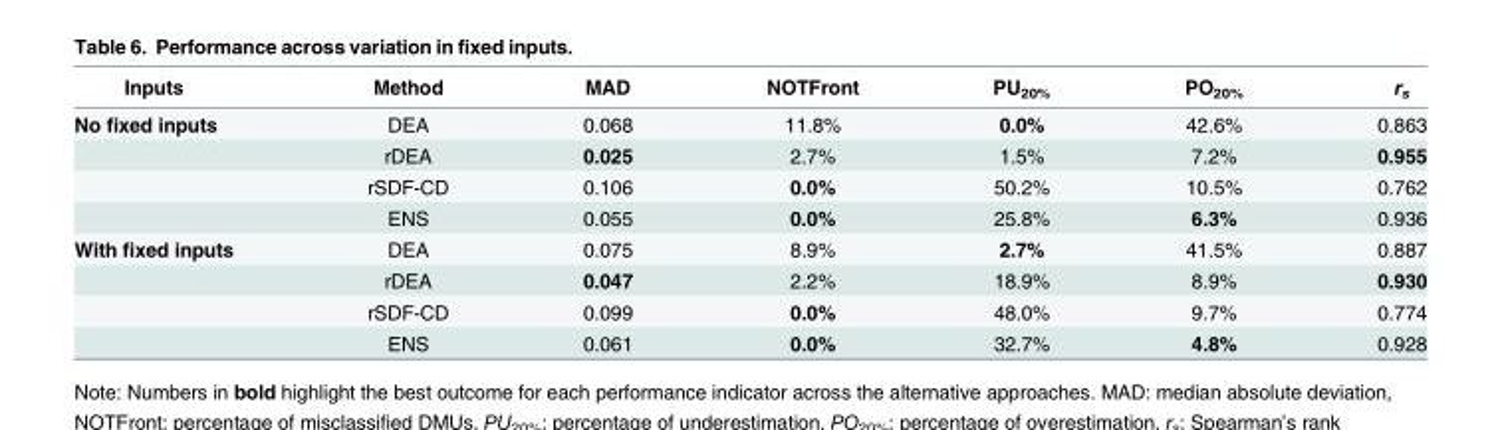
<table><thead><tr><td>Inputs</td><td>Method</td><td>MAD</td><td>NOTFront</td><td>PU<sub>20%</sub></td><td>PO<sub>20%</sub></td><td>r<sub>s</sub></td></tr></thead><tbody><tr><td rowspan="4">No fixed inputs</td><td>DEA</td><td>0.068</td><td>11.8%</td><td>0.0%</td><td>42.6%</td><td>0.863</td></tr><tr><td>rDEA</td><td>0.025</td><td>2.7%</td><td>1.5%</td><td>7.2%</td><td>0.955</td></tr><tr><td>rSDF-CD</td><td>0.106</td><td>0.0%</td><td>50.2%</td><td>10.5%</td><td>0.762</td></tr><tr><td>ENS</td><td>0.055</td><td>0.0%</td><td>25.8%</td><td>6.3%</td><td>0.936</td></tr><tr><td rowspan="4">With fixed inputs</td><td>DEA</td><td>0.075</td><td>8.9%</td><td>2.7%</td><td>41.5%</td><td>0.887</td></tr><tr><td>rDEA</td><td>0.047</td><td>2.2%</td><td>18.9%</td><td>8.9%</td><td>0.930</td></tr><tr><td>rSDF-CD</td><td>0.099</td><td>0.0%</td><td>48.0%</td><td>9.7%</td><td>0.774</td></tr><tr><td>ENS</td><td>0.061</td><td>0.0%</td><td>32.7%</td><td>4.8%</td><td>0.928</td></tr></tbody></table>